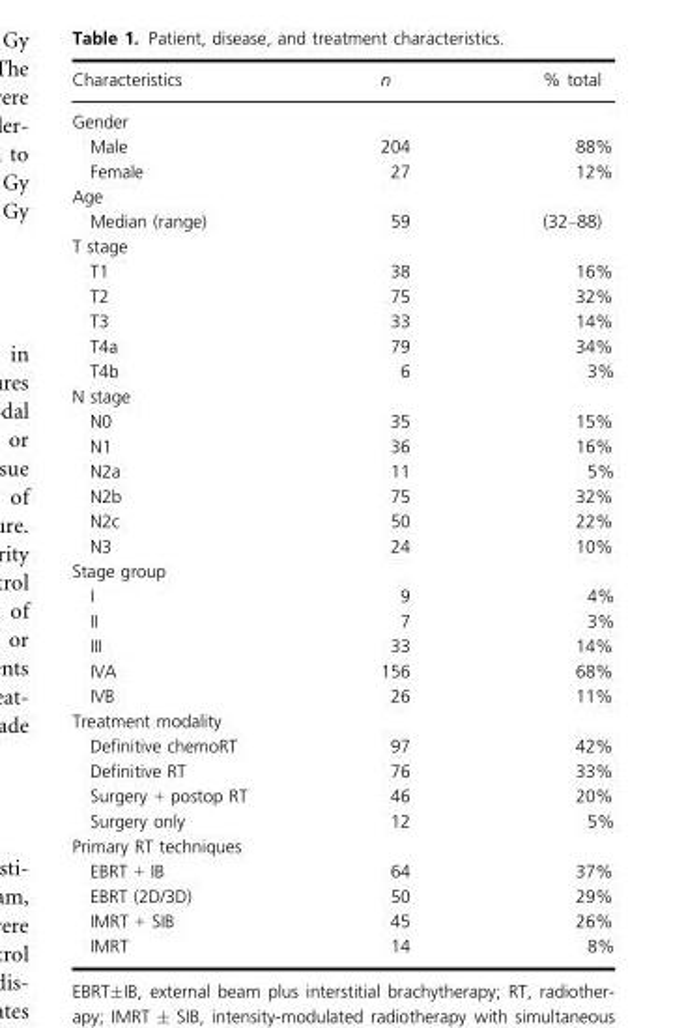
<table><thead><tr><td>Characteristics</td><td>n</td><td>% total</td></tr></thead><tbody><tr><td colspan="3">Gender</td></tr><tr><td>Male</td><td>204</td><td>88%</td></tr><tr><td>Female</td><td>27</td><td>12%</td></tr><tr><td colspan="3">Age</td></tr><tr><td>Median (range)</td><td>59</td><td>(32–88)</td></tr><tr><td colspan="3">T stage</td></tr><tr><td>T1</td><td>38</td><td>16%</td></tr><tr><td>T2</td><td>75</td><td>32%</td></tr><tr><td>T3</td><td>33</td><td>14%</td></tr><tr><td>T4a</td><td>79</td><td>34%</td></tr><tr><td>T4b</td><td>6</td><td>3%</td></tr><tr><td colspan="3">N stage</td></tr><tr><td>N0</td><td>35</td><td>15%</td></tr><tr><td>N1</td><td>36</td><td>16%</td></tr><tr><td>N2a</td><td>11</td><td>5%</td></tr><tr><td>N2b</td><td>75</td><td>32%</td></tr><tr><td>N2c</td><td>50</td><td>22%</td></tr><tr><td>N3</td><td>24</td><td>10%</td></tr><tr><td colspan="3">Stage group</td></tr><tr><td>I</td><td>9</td><td>4%</td></tr><tr><td>II</td><td>7</td><td>3%</td></tr><tr><td>III</td><td>33</td><td>14%</td></tr><tr><td>IVA</td><td>156</td><td>68%</td></tr><tr><td>IVB</td><td>26</td><td>11%</td></tr><tr><td colspan="3">Treatment modality</td></tr><tr><td>Definitive chemoRT</td><td>97</td><td>42%</td></tr><tr><td>Definitive RT</td><td>76</td><td>33%</td></tr><tr><td>Surgery + postop RT</td><td>46</td><td>20%</td></tr><tr><td>Surgery only</td><td>12</td><td>5%</td></tr><tr><td colspan="3">Primary RT techniques</td></tr><tr><td>EBRT + IB</td><td>64</td><td>37%</td></tr><tr><td>EBRT (2D/3D)</td><td>50</td><td>29%</td></tr><tr><td>IMRT + SIB</td><td>45</td><td>26%</td></tr><tr><td>IMRT</td><td>14</td><td>8%</td></tr></tbody></table>